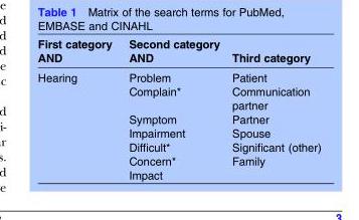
<table><thead><tr><td>First category AND</td><td>Second category AND</td><td>Third category</td></tr></thead><tbody><tr><td rowspan="7">Hearing</td><td>Problem</td><td>Patient</td></tr><tr><td>Complain*</td><td>Communication partner</td></tr><tr><td>Symptom</td><td>Partner</td></tr><tr><td>Impairment</td><td>Spouse</td></tr><tr><td>Difficult*</td><td>Significant (other)</td></tr><tr><td>Concern*</td><td>Family</td></tr><tr><td>Impact</td><td></td></tr></tbody></table>